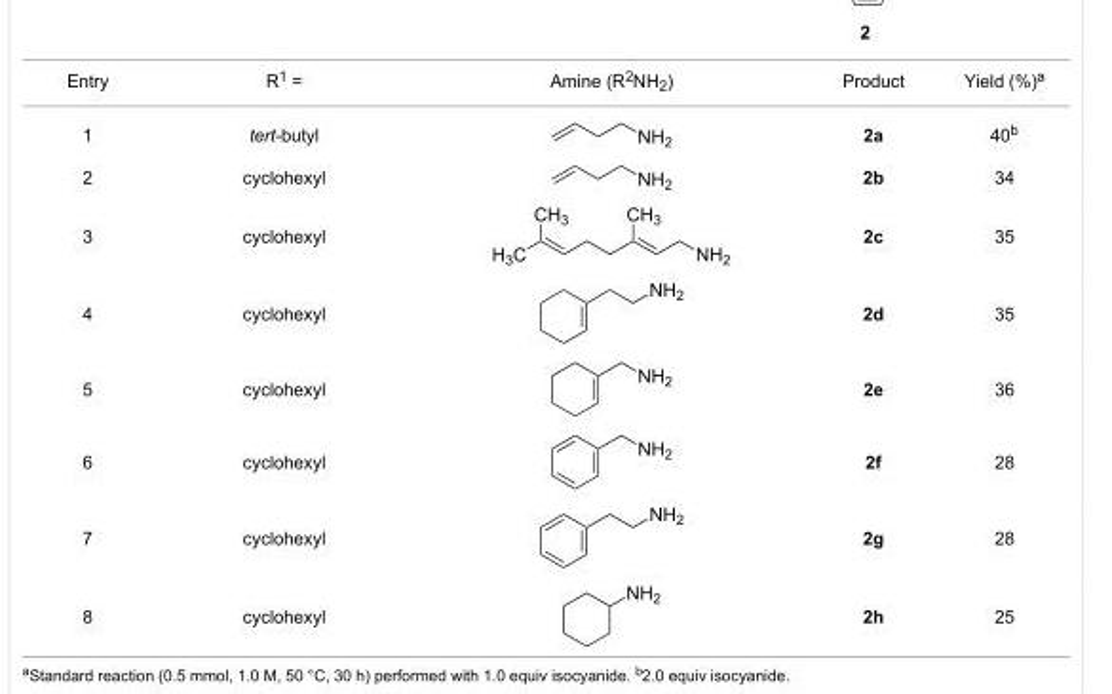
<table><tbody><tr><td>Entry</td><td>R<sup>1</sup> =</td><td>Amine (R<sup>2</sup>NH<sub>2</sub>)</td><td>Product</td><td>Yield (%)<sup>a</sup></td></tr><tr><td>1</td><td>tert-butyl</td><td></td><td>2a</td><td>40<sup>b</sup></td></tr><tr><td>2</td><td>cyclohexyl</td><td></td><td>2b</td><td>34</td></tr><tr><td>3</td><td>cyclohexyl</td><td></td><td>2c</td><td>35</td></tr><tr><td>4</td><td>cyclohexyl</td><td></td><td>2d</td><td>35</td></tr><tr><td>5</td><td>cyclohexyl</td><td></td><td>2e</td><td>36</td></tr><tr><td>6</td><td>cyclohexyl</td><td></td><td>2f</td><td>28</td></tr><tr><td>7</td><td>cyclohexyl</td><td></td><td>2g</td><td>28</td></tr><tr><td>8</td><td>cyclohexyl</td><td></td><td>2h</td><td>25</td></tr></tbody></table>